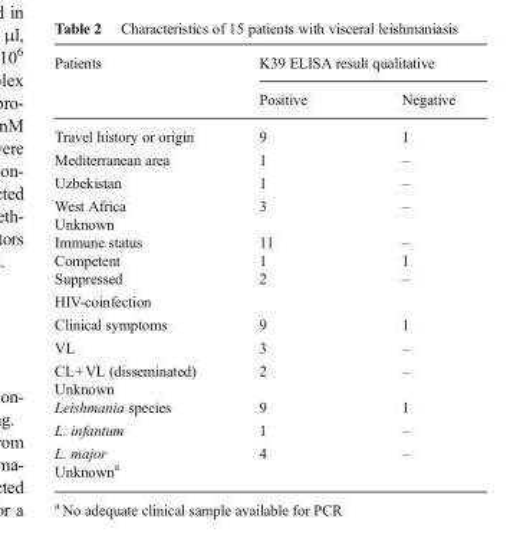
<table><thead><tr><td rowspan="2">Patients</td><td colspan="2">K39 ELISA result qualitative</td></tr><tr><td>Positive</td><td>Negative</td></tr></thead><tbody><tr><td>Travel history or origin</td><td>9</td><td>1</td></tr><tr><td>Mediterranean area</td><td>1</td><td>–</td></tr><tr><td>Uzbekistan</td><td>1</td><td>–</td></tr><tr><td>West Africa Unknown</td><td>3</td><td>–</td></tr><tr><td>Immune status Competent Suppressed</td><td>11 1 2</td><td>– 1 –</td></tr><tr><td colspan="3">HIV-coinfection</td></tr><tr><td>Clinical symptoms</td><td>9</td><td>1</td></tr><tr><td>VL</td><td>3</td><td>–</td></tr><tr><td>CL+VL (disseminated) Unknown</td><td>2</td><td>–</td></tr><tr><td>Leishmania species</td><td>9</td><td>1</td></tr><tr><td>L. infantum</td><td>1</td><td>–</td></tr><tr><td>L. major Unknown<sup>a</sup></td><td>4</td><td>–</td></tr></tbody></table>